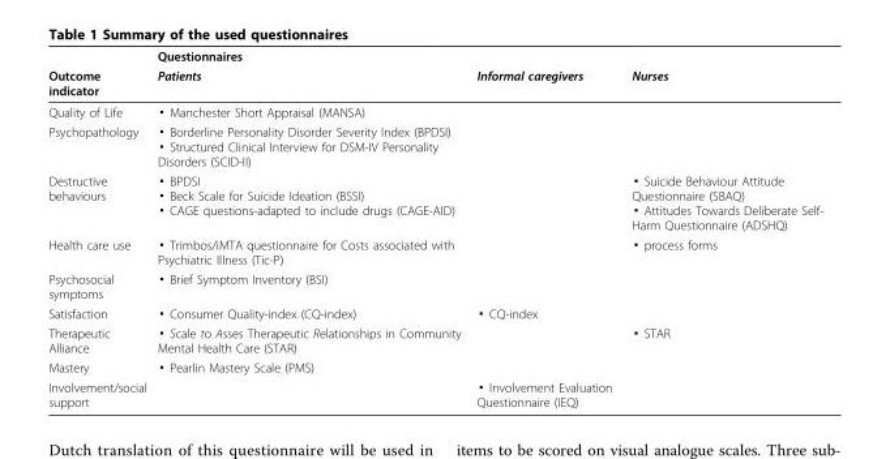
<table><thead><tr><td rowspan="2">Outcome indicator</td><td colspan="3">Questionnaires</td></tr><tr><td>Patients</td><td>Informal caregivers</td><td>Nurses</td></tr></thead><tbody><tr><td>Quality of Life</td><td>▪ Manchester Short Appraisal (MANSA)</td><td></td><td></td></tr><tr><td>Psychopathology</td><td>▪ Borderline Personality Disorder Severity Index (BPDSI) ▪ Structured Clinical Interview for DSM-IV Personality Disorders (SCID-II)</td><td></td><td></td></tr><tr><td>Destructive behaviours</td><td>▪ BPDSI ▪ Beck Scale for Suicide Ideation (BSSI) ▪ CAGE questions-adapted to include drugs (CAGE-AID)</td><td></td><td>▪ Suicide Behaviour Attitude Questionnaire (SBAQ) ▪ Attitudes Towards Deliberate Self- Harm Questionnaire (ADSHQ)</td></tr><tr><td>Health care use</td><td>▪ Trimbos/iMTA questionnaire for Costs associated with Psychiatric Illness (Tic-P)</td><td></td><td>▪ process forms</td></tr><tr><td>Psychosocial symptoms</td><td>▪ Brief Symptom Inventory (BSI)</td><td></td><td></td></tr><tr><td>Satisfaction</td><td>▪ Consumer Quality-index (CQ-index)</td><td>▪ CQ-index</td><td></td></tr><tr><td>Therapeutic Alliance</td><td>▪ Scale to Asses Therapeutic Relationships in Community Mental Health Care (STAR)</td><td></td><td>▪ STAR</td></tr><tr><td>Mastery</td><td>▪ Pearlin Mastery Scale (PMS)</td><td></td><td></td></tr><tr><td>Involvement/social support</td><td></td><td>▪ Involvement Evaluation Questionnaire (IEQ)</td><td></td></tr></tbody></table>